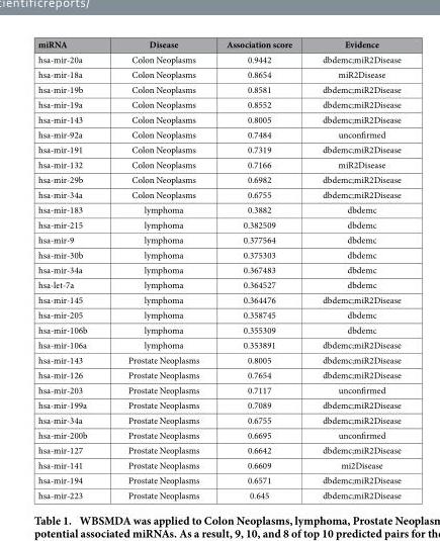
<table><thead><tr><td>miRNA</td><td>Disease</td><td>Association score</td><td>Evidence</td></tr></thead><tbody><tr><td>hsa-mir-20a</td><td>Colon Neoplasms</td><td>0.9442</td><td>dbdemc;miR2Disease</td></tr><tr><td>hsa-mir-18a</td><td>Colon Neoplasms</td><td>0.8654</td><td>miR2Disease</td></tr><tr><td>hsa-mir-19b</td><td>Colon Neoplasms</td><td>0.8581</td><td>dbdemc;miR2Disease</td></tr><tr><td>hsa-mir-19a</td><td>Colon Neoplasms</td><td>0.8552</td><td>dbdemc;miR2Disease</td></tr><tr><td>hsa-mir-143</td><td>Colon Neoplasms</td><td>0.8005</td><td>dbdemc;miR2Disease</td></tr><tr><td>hsa-mir-92a</td><td>Colon Neoplasms</td><td>0.7484</td><td>unconfirmed</td></tr><tr><td>hsa-mir-191</td><td>Colon Neoplasms</td><td>0.7319</td><td>dbdemc;miR2Disease</td></tr><tr><td>hsa-mir-132</td><td>Colon Neoplasms</td><td>0.7166</td><td>miR2Disease</td></tr><tr><td>hsa-mir-29b</td><td>Colon Neoplasms</td><td>0.6982</td><td>dbdemc;miR2Disease</td></tr><tr><td>hsa-mir-34a</td><td>Colon Neoplasms</td><td>0.6755</td><td>dbdemc;miR2Disease</td></tr><tr><td>hsa-mir-183</td><td>lymphoma</td><td>0.3882</td><td>dbdemc</td></tr><tr><td>hsa-mir-215</td><td>lymphoma</td><td>0.382509</td><td>dbdemc</td></tr><tr><td>hsa-mir-9</td><td>lymphoma</td><td>0.377564</td><td>dbdemc</td></tr><tr><td>hsa-mir-30b</td><td>lymphoma</td><td>0.375303</td><td>dbdemc</td></tr><tr><td>hsa-mir-34a</td><td>lymphoma</td><td>0.367483</td><td>dbdemc</td></tr><tr><td>hsa-let-7a</td><td>lymphoma</td><td>0.364527</td><td>dbdemc</td></tr><tr><td>hsa-mir-145</td><td>lymphoma</td><td>0.364476</td><td>dbdemc;miR2Disease</td></tr><tr><td>hsa-mir-205</td><td>lymphoma</td><td>0.358745</td><td>dbdemc</td></tr><tr><td>hsa-mir-106b</td><td>lymphoma</td><td>0.355309</td><td>dbdemc</td></tr><tr><td>hsa-mir-106a</td><td>lymphoma</td><td>0.353891</td><td>dbdemc;miR2Disease</td></tr><tr><td>hsa-mir-143</td><td>Prostate Neoplasms</td><td>0.8005</td><td>dbdemc;miR2Disease</td></tr><tr><td>hsa-mir-126</td><td>Prostate Neoplasms</td><td>0.7654</td><td>dbdemc;miR2Disease</td></tr><tr><td>hsa-mir-203</td><td>Prostate Neoplasms</td><td>0.7117</td><td>unconfirmed</td></tr><tr><td>hsa-mir-199a</td><td>Prostate Neoplasms</td><td>0.7089</td><td>dbdemc;miR2Disease</td></tr><tr><td>hsa-mir-34a</td><td>Prostate Neoplasms</td><td>0.6755</td><td>dbdemc;miR2Disease</td></tr><tr><td>hsa-mir-200b</td><td>Prostate Neoplasms</td><td>0.6695</td><td>unconfirmed</td></tr><tr><td>hsa-mir-127</td><td>Prostate Neoplasms</td><td>0.6642</td><td>dbdemc;miR2Disease</td></tr><tr><td>hsa-mir-141</td><td>Prostate Neoplasms</td><td>0.6609</td><td>mi2Disease</td></tr><tr><td>hsa-mir-194</td><td>Prostate Neoplasms</td><td>0.6571</td><td>dbdemc;miR2Disease</td></tr><tr><td>hsa-mir-223</td><td>Prostate Neoplasms</td><td>0.645</td><td>dbdemc;miR2Disease</td></tr></tbody></table>